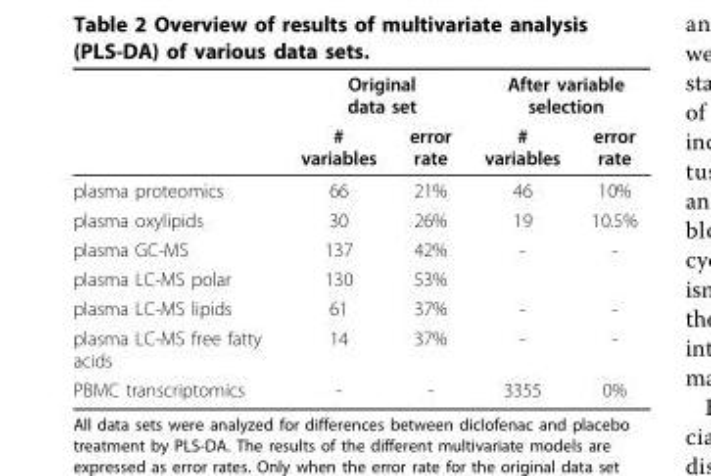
<table><thead><tr><td rowspan="2"></td><td colspan="2">Original data set</td><td colspan="2">After variable selection</td></tr><tr><td># variables</td><td>error rate</td><td># variables</td><td>error rate</td></tr></thead><tbody><tr><td>plasma proteomics</td><td>66</td><td>21%</td><td>46</td><td>10%</td></tr><tr><td>plasma oxylipids</td><td>30</td><td>26%</td><td>19</td><td>10.5%</td></tr><tr><td>plasma GC-MS</td><td>137</td><td>42%</td><td>-</td><td>-</td></tr><tr><td>plasma LC-MS polar</td><td>130</td><td>53%</td><td></td><td></td></tr><tr><td>plasma LC-MS lipids</td><td>61</td><td>37%</td><td>-</td><td>-</td></tr><tr><td>plasma LC-MS free fatty acids</td><td>14</td><td>37%</td><td>-</td><td>-</td></tr><tr><td>PBMC transcriptomics</td><td>-</td><td>-</td><td>3355</td><td>0%</td></tr></tbody></table>